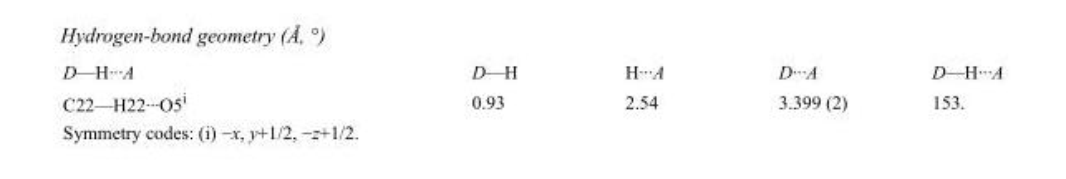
<table><tbody><tr><td>D—H···A</td><td>D—H</td><td>H···A</td><td>D···A</td><td>D—H···A</td></tr><tr><td>C22—H22···O5<sup>i</sup></td><td>0.93</td><td>2.54</td><td>3.399 (2)</td><td>153.</td></tr></tbody></table>